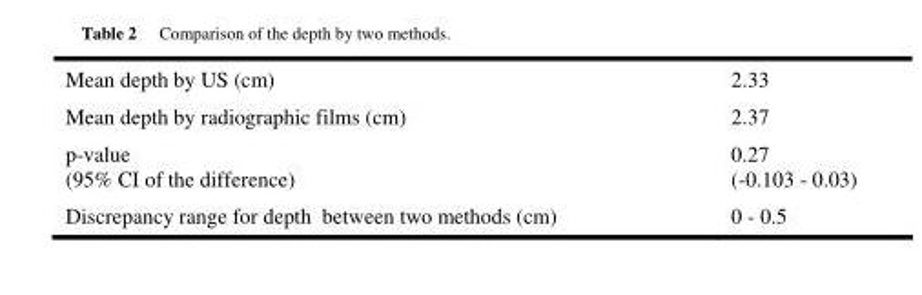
<table><thead><tr><td>Mean depth by US (cm)</td><td>2.33</td></tr></thead><tbody><tr><td>Mean depth by radiographic films (cm)</td><td>2.37</td></tr><tr><td>p-value (95% CI of the difference)</td><td>0.27 (-0.103 - 0.03)</td></tr><tr><td>Discrepancy range for depth between two methods (cm)</td><td>0 - 0.5</td></tr></tbody></table>